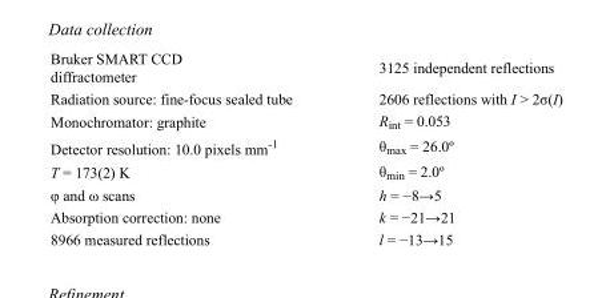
<table><tbody><tr><td>Bruker SMART CCD diffractometer</td><td>3125 independent reflections</td></tr><tr><td>Radiation source: fine-focus sealed tube</td><td>2606 reflections with I &gt; 2σ(I)</td></tr><tr><td>Monochromator: graphite</td><td>R<sub>int</sub> = 0.053</td></tr><tr><td>Detector resolution: 10.0 pixels mm<sup>-1</sup></td><td>θ<sub>max</sub> = 26.0º</td></tr><tr><td>T = 173(2) K</td><td>θ<sub>min</sub> = 2.0º</td></tr><tr><td>φ and ω scans</td><td>h = −8→5</td></tr><tr><td>Absorption correction: none</td><td>k = −21→21</td></tr><tr><td>8966 measured reflections</td><td>l = −13→15</td></tr></tbody></table>